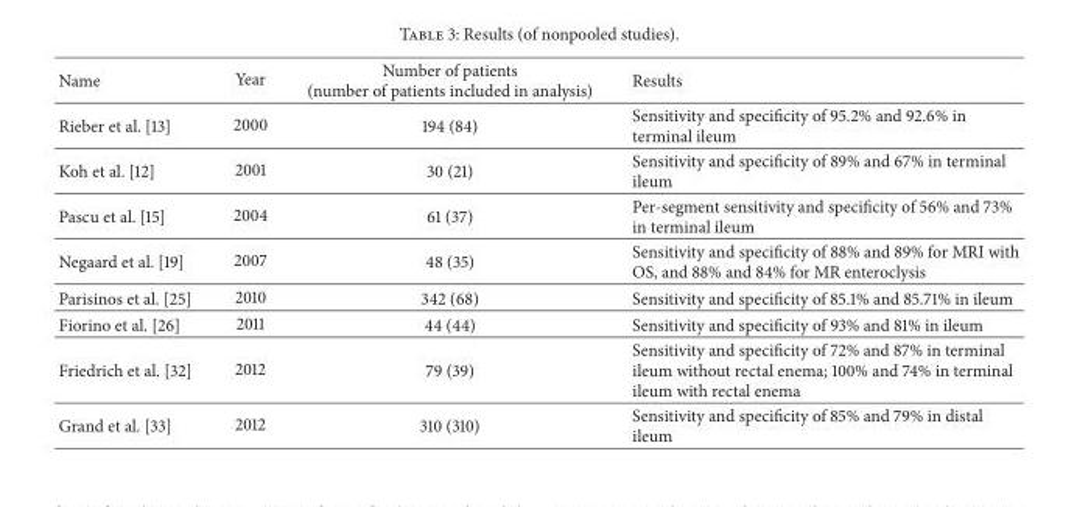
<table><thead><tr><td>Name</td><td>Year</td><td>Number of patients (number of patients included in analysis)</td><td>Results</td></tr></thead><tbody><tr><td>Rieber et al. [13]</td><td>2000</td><td>194 (84)</td><td>Sensitivity and specificity of 95.2% and 92.6% in terminal ileum</td></tr><tr><td>Koh et al. [12]</td><td>2001</td><td>30 (21)</td><td>Sensitivity and specificity of 89% and 67% in terminal ileum</td></tr><tr><td>Pascu et al. [15]</td><td>2004</td><td>61 (37)</td><td>Per-segment sensitivity and specificity of 56% and 73% in terminal ileum</td></tr><tr><td>Negaard et al. [19]</td><td>2007</td><td>48 (35)</td><td>Sensitivity and specificity of 88% and 89% for MRI with OS, and 88% and 84% for MR enteroclysis</td></tr><tr><td>Parisinos et al. [25]</td><td>2010</td><td>342 (68)</td><td>Sensitivity and specificity of 85.1% and 85.71% in ileum</td></tr><tr><td>Fiorino et al. [26]</td><td>2011</td><td>44 (44)</td><td>Sensitivity and specificity of 93% and 81% in ileum</td></tr><tr><td>Friedrich et al. [32]</td><td>2012</td><td>79 (39)</td><td>Sensitivity and specificity of 72% and 87% in terminal ileum without rectal enema; 100% and 74% in terminal ileum with rectal enema</td></tr><tr><td>Grand et al. [33]</td><td>2012</td><td>310 (310)</td><td>Sensitivity and specificity of 85% and 79% in distal ileum</td></tr></tbody></table>